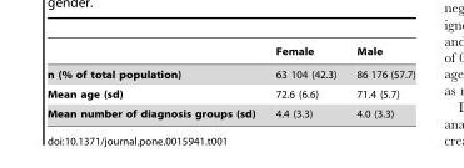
<table><thead><tr><td></td><td>Female</td><td>Male</td></tr></thead><tbody><tr><td>n (% of total population)</td><td>63 104 (42.3)</td><td>86 176 (57.7)</td></tr><tr><td>Mean age (sd)</td><td>72.6 (6.6)</td><td>71.4 (5.7)</td></tr><tr><td>Mean number of diagnosis groups (sd)</td><td>4.4 (3.3)</td><td>4.0 (3.3)</td></tr></tbody></table>